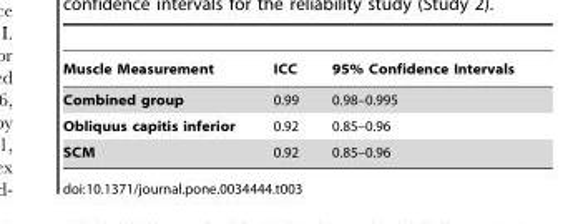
<table><thead><tr><td>Muscle Measurement</td><td>ICC</td><td>95% Confidence Intervals</td></tr></thead><tbody><tr><td>Combined group</td><td>0.99</td><td>0.98–0.995</td></tr><tr><td>Obliquus capitis inferior</td><td>0.92</td><td>0.85–0.96</td></tr><tr><td>SCM</td><td>0.92</td><td>0.85–0.96</td></tr></tbody></table>